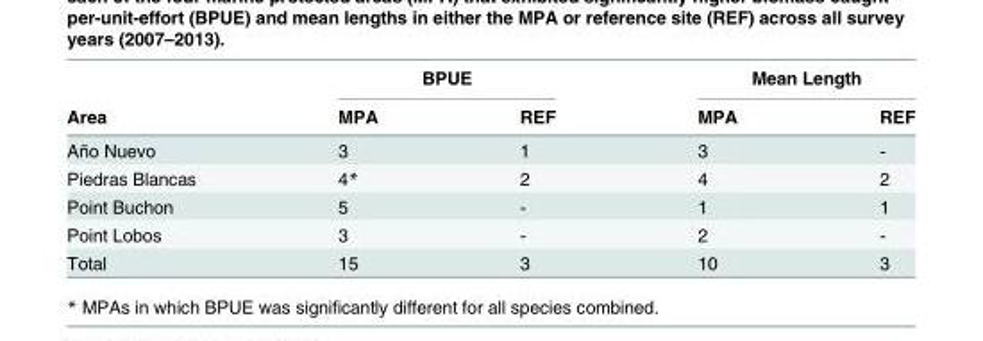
<table><thead><tr><td rowspan="2">Area</td><td colspan="2">BPUE</td><td colspan="2">Mean Length</td></tr><tr><td>MPA</td><td>REF</td><td>MPA</td><td>REF</td></tr></thead><tbody><tr><td>Año Nuevo</td><td>3</td><td>1</td><td>3</td><td>-</td></tr><tr><td>Piedras Blancas</td><td>4*</td><td>2</td><td>4</td><td>2</td></tr><tr><td>Point Buchon</td><td>5</td><td>-</td><td>1</td><td>1</td></tr><tr><td>Point Lobos</td><td>3</td><td>-</td><td>2</td><td>-</td></tr><tr><td>Total</td><td>15</td><td>3</td><td>10</td><td>3</td></tr></tbody></table>